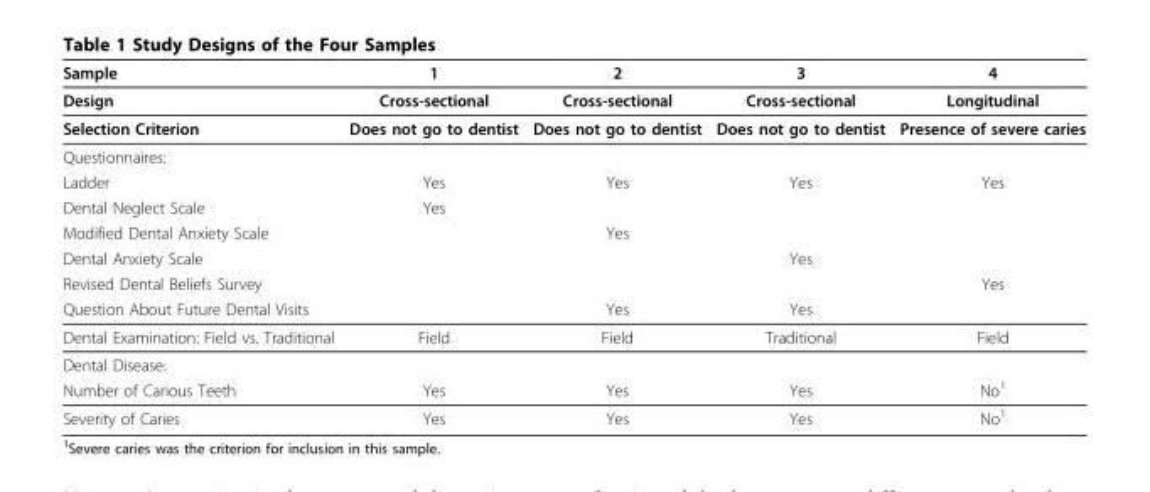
<table><thead><tr><td>Sample</td><td>1</td><td>2</td><td>3</td><td>4</td></tr></thead><tbody><tr><td>Design</td><td>Cross-sectional</td><td>Cross-sectional</td><td>Cross-sectional</td><td>Longitudinal</td></tr><tr><td>Selection Criterion</td><td>Does not go to dentist</td><td>Does not go to dentist</td><td>Does not go to dentist</td><td>Presence of severe caries</td></tr><tr><td colspan="5">Questionnaires:</td></tr><tr><td>Ladder</td><td>Yes</td><td>Yes</td><td>Yes</td><td>Yes</td></tr><tr><td>Dental Neglect Scale</td><td>Yes</td><td></td><td></td><td></td></tr><tr><td>Modified Dental Anxiety Scale</td><td></td><td>Yes</td><td></td><td></td></tr><tr><td>Dental Anxiety Scale</td><td></td><td></td><td>Yes</td><td></td></tr><tr><td>Revised Dental Beliefs Survey</td><td></td><td></td><td></td><td>Yes</td></tr><tr><td>Question About Future Dental Visits</td><td></td><td>Yes</td><td>Yes</td><td></td></tr><tr><td>Dental Examination: Field vs. Traditional</td><td>Field</td><td>Field</td><td>Traditional</td><td>Field</td></tr><tr><td colspan="5">Dental Disease:</td></tr><tr><td>Number of Carious Teeth</td><td>Yes</td><td>Yes</td><td>Yes</td><td>No<sup>1</sup></td></tr><tr><td>Severity of Caries</td><td>Yes</td><td>Yes</td><td>Yes</td><td>No<sup>1</sup></td></tr></tbody></table>